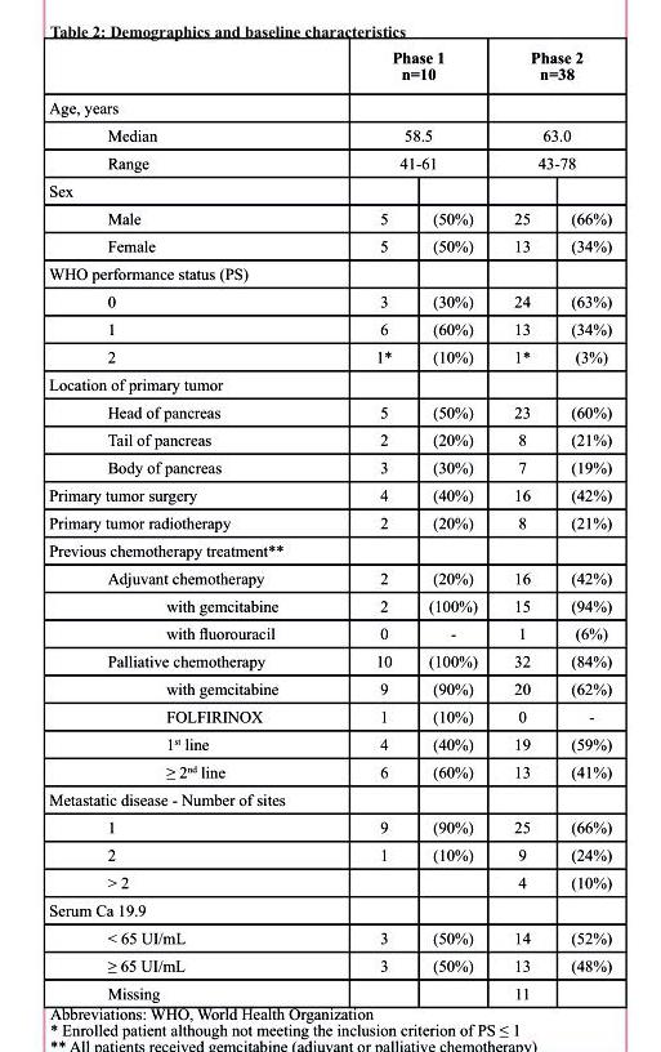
<table><thead><tr><td></td><td colspan="2">Phase 1 n=10</td><td colspan="2">Phase 2 n=38</td></tr></thead><tbody><tr><td colspan="5">Age, years</td></tr><tr><td>Median</td><td colspan="2">58.5</td><td colspan="2">63.0</td></tr><tr><td>Range</td><td colspan="2">41-61</td><td colspan="2">43-78</td></tr><tr><td colspan="5">Sex</td></tr><tr><td>Male</td><td>5</td><td>(50%)</td><td>25</td><td>(66%)</td></tr><tr><td>Female</td><td>5</td><td>(50%)</td><td>13</td><td>(34%)</td></tr><tr><td colspan="5">WHO performance status (PS)</td></tr><tr><td>0</td><td>3</td><td>(30%)</td><td>24</td><td>(63%)</td></tr><tr><td>1</td><td>6</td><td>(60%)</td><td>13</td><td>(34%)</td></tr><tr><td>2</td><td>1*</td><td>(10%)</td><td>1*</td><td>(3%)</td></tr><tr><td colspan="5">Location of primary tumor</td></tr><tr><td>Head of pancreas</td><td>5</td><td>(50%)</td><td>23</td><td>(60%)</td></tr><tr><td>Tail of pancreas</td><td>2</td><td>(20%)</td><td>8</td><td>(21%)</td></tr><tr><td>Body of pancreas</td><td>3</td><td>(30%)</td><td>7</td><td>(19%)</td></tr><tr><td>Primary tumor surgery</td><td>4</td><td>(40%)</td><td>16</td><td>(42%)</td></tr><tr><td>Primary tumor radiotherapy</td><td>2</td><td>(20%)</td><td>8</td><td>(21%)</td></tr><tr><td colspan="5">Previous chemotherapy treatment**</td></tr><tr><td>Adjuvant chemotherapy</td><td>2</td><td>(20%)</td><td>16</td><td>(42%)</td></tr><tr><td>with gemcitabine</td><td>2</td><td>(100%)</td><td>15</td><td>(94%)</td></tr><tr><td>with fluorouracil</td><td>0</td><td>-</td><td>1</td><td>(6%)</td></tr><tr><td>Palliative chemotherapy</td><td>10</td><td>(100%)</td><td>32</td><td>(84%)</td></tr><tr><td>with gemcitabine</td><td>9</td><td>(90%)</td><td>20</td><td>(62%)</td></tr><tr><td>FOLFIRINOX</td><td>1</td><td>(10%)</td><td>0</td><td>-</td></tr><tr><td>1<sup>st</sup> line</td><td>4</td><td>(40%)</td><td>19</td><td>(59%)</td></tr><tr><td>≥ 2<sup>nd</sup> line</td><td>6</td><td>(60%)</td><td>13</td><td>(41%)</td></tr><tr><td colspan="5">Metastatic disease - Number of sites</td></tr><tr><td>1</td><td>9</td><td>(90%)</td><td>25</td><td>(66%)</td></tr><tr><td>2</td><td>1</td><td>(10%)</td><td>9</td><td>(24%)</td></tr><tr><td>&gt; 2</td><td></td><td></td><td>4</td><td>(10%)</td></tr><tr><td colspan="5">Serum Ca 19.9</td></tr><tr><td>&lt; 65 UI/mL</td><td>3</td><td>(50%)</td><td>14</td><td>(52%)</td></tr><tr><td>≥ 65 UI/mL</td><td>3</td><td>(50%)</td><td>13</td><td>(48%)</td></tr><tr><td>Missing</td><td></td><td></td><td>11</td><td></td></tr></tbody></table>